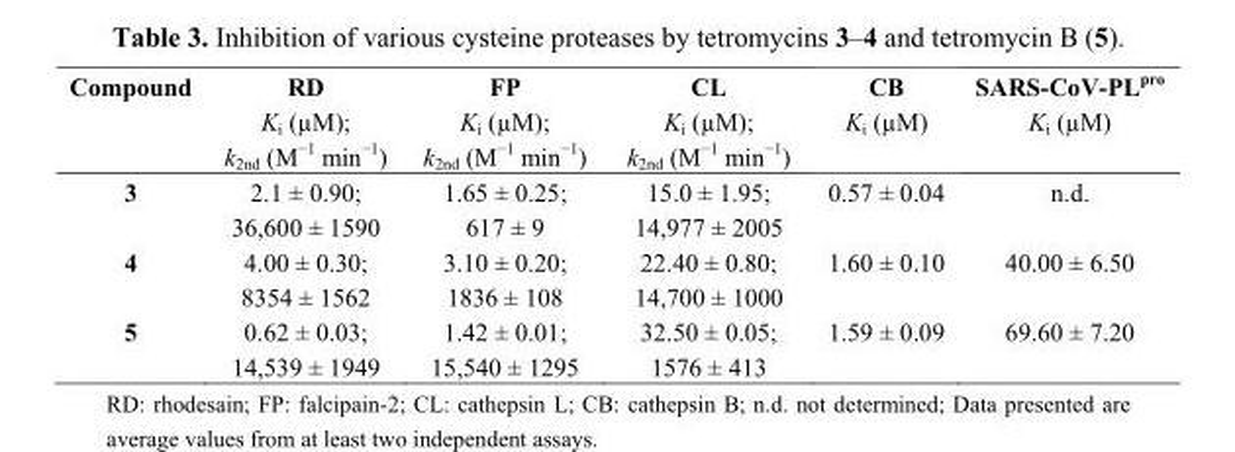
<table><thead><tr><td>Compound</td><td>RD K<sub>i</sub> (µM); k<sub>2nd</sub> (M<sup>−1</sup> min<sup>−1</sup>)</td><td>FP K<sub>i</sub> (µM); k<sub>2nd</sub> (M<sup>−1</sup> min<sup>−1</sup>)</td><td>CL K<sub>i</sub> (µM); k<sub>2nd</sub> (M<sup>−1</sup> min<sup>−1</sup>)</td><td>CB K<sub>i</sub> (µM)</td><td>SARS-CoV-PL<sup>pro</sup> K<sub>i</sub> (µM)</td></tr></thead><tbody><tr><td>3</td><td>2.1 ± 0.90; 36,600 ± 1590</td><td>1.65 ± 0.25; 617 ± 9</td><td>15.0 ± 1.95; 14,977 ± 2005</td><td>0.57 ± 0.04</td><td>n.d.</td></tr><tr><td>4</td><td>4.00 ± 0.30; 8354 ± 1562</td><td>3.10 ± 0.20; 1836 ± 108</td><td>22.40 ± 0.80; 14,700 ± 1000</td><td>1.60 ± 0.10</td><td>40.00 ± 6.50</td></tr><tr><td>5</td><td>0.62 ± 0.03; 14,539 ± 1949</td><td>1.42 ± 0.01; 15,540 ± 1295</td><td>32.50 ± 0.05; 1576 ± 413</td><td>1.59 ± 0.09</td><td>69.60 ± 7.20</td></tr></tbody></table>